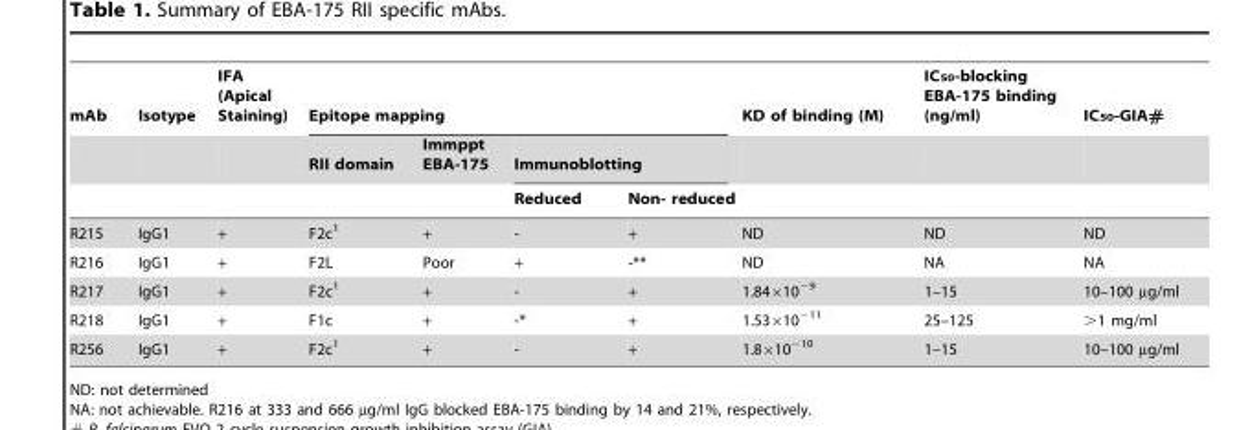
<table><thead><tr><td rowspan="3">mAb</td><td rowspan="3">Isotype</td><td rowspan="3">IFA (Apical Staining)</td><td colspan="4">Epitope mapping</td><td rowspan="3">KD of binding (M)</td><td rowspan="3">IC<sub>50</sub>-blocking EBA-175 binding (ng/ml)</td><td rowspan="3">IC<sub>50</sub>-GIA#</td></tr><tr><td rowspan="2">RII domain</td><td rowspan="2">Immppt EBA-175</td><td colspan="2">Immunoblotting</td></tr><tr><td>Reduced</td><td>Non- reduced</td></tr></thead><tbody><tr><td>R215</td><td>IgG1</td><td>+</td><td>F2c<sup>1</sup></td><td>+</td><td>-</td><td>+</td><td>ND</td><td>ND</td><td>ND</td></tr><tr><td>R216</td><td>IgG1</td><td>+</td><td>F2L</td><td>Poor</td><td>+</td><td>-**</td><td>ND</td><td>NA</td><td>NA</td></tr><tr><td>R217</td><td>IgG1</td><td>+</td><td>F2c<sup>1</sup></td><td>+</td><td>-</td><td>+</td><td>1.84×10<sup>−9</sup></td><td>1–15</td><td>10–100 µg/ml</td></tr><tr><td>R218</td><td>IgG1</td><td>+</td><td>F1c</td><td>+</td><td>-*</td><td>+</td><td>1.53×10<sup>−11</sup></td><td>25–125</td><td>&gt;1 mg/ml</td></tr><tr><td>R256</td><td>IgG1</td><td>+</td><td>F2c<sup>1</sup></td><td>+</td><td>-</td><td>+</td><td>1.8×10<sup>−10</sup></td><td>1–15</td><td>10–100 µg/ml</td></tr></tbody></table>